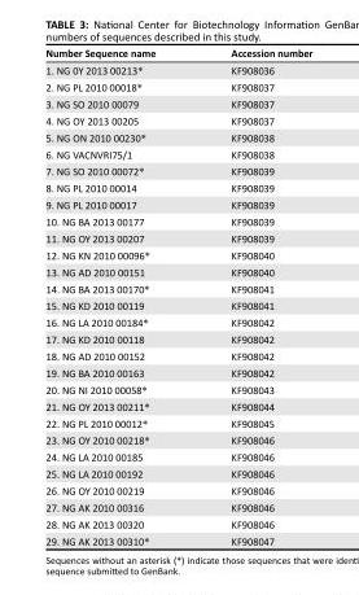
<table><thead><tr><td>Number Sequence name</td><td>Accession number</td></tr></thead><tbody><tr><td>1. NG 0Y 2013 00213*</td><td>KF908036</td></tr><tr><td>2. NG PL 2010 00018*</td><td>KF908037</td></tr><tr><td>3. NG SO 2010 00079</td><td>KF908037</td></tr><tr><td>4. NG OY 2013 00205</td><td>KF908037</td></tr><tr><td>5. NG ON 2010 00230*</td><td>KF908038</td></tr><tr><td>6. NG VACNVRI75/1</td><td>KF908038</td></tr><tr><td>7. NG SO 2010 00072*</td><td>KF908039</td></tr><tr><td>8. NG PL 2010 00014</td><td>KF908039</td></tr><tr><td>9. NG PL 2010 00017</td><td>KF908039</td></tr><tr><td>10. NG BA 2013 00177</td><td>KF908039</td></tr><tr><td>11. NG OY 2013 00207</td><td>KF908039</td></tr><tr><td>12. NG KN 2010 00096*</td><td>KF908040</td></tr><tr><td>13. NG AD 2010 00151</td><td>KF908040</td></tr><tr><td>14. NG BA 2013 00170*</td><td>KF908041</td></tr><tr><td>15. NG KD 2010 00119</td><td>KF908041</td></tr><tr><td>16. NG LA 2010 00184*</td><td>KF908042</td></tr><tr><td>17. NG KD 2010 00118</td><td>KF908042</td></tr><tr><td>18. NG AD 2010 00152</td><td>KF908042</td></tr><tr><td>19. NG BA 2010 00163</td><td>KF908042</td></tr><tr><td>20. NG NI 2010 00058*</td><td>KF908043</td></tr><tr><td>21. NG OY 2013 00211*</td><td>KF908044</td></tr><tr><td>22. NG PL 2010 00012*</td><td>KF908045</td></tr><tr><td>23. NG OY 2010 00218*</td><td>KF908046</td></tr><tr><td>24. NG LA 2010 00185</td><td>KF908046</td></tr><tr><td>25. NG LA 2010 00192</td><td>KF908046</td></tr><tr><td>26. NG OY 2010 00219</td><td>KF908046</td></tr><tr><td>27. NG AK 2010 00316</td><td>KF908046</td></tr><tr><td>28. NG AK 2013 00320</td><td>KF908046</td></tr><tr><td>29. NG AK 2013 00310*</td><td>KF908047</td></tr></tbody></table>